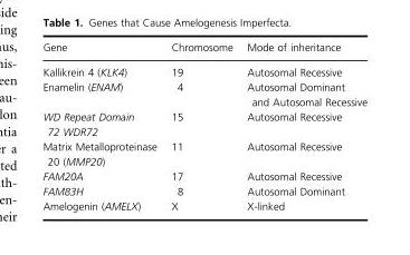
<table><thead><tr><td>Gene</td><td>Chromosome</td><td>Mode of inheritance</td></tr></thead><tbody><tr><td>Kallikrein 4 (KLK4)</td><td>19</td><td>Autosomal Recessive</td></tr><tr><td>Enamelin (ENAM)</td><td>4</td><td>Autosomal Dominant and Autosomal Recessive</td></tr><tr><td>WD Repeat Domain 72 WDR72</td><td>15</td><td>Autosomal Recessive</td></tr><tr><td>Matrix Metalloproteinase 20 (MMP20)</td><td>11</td><td>Autosomal Recessive</td></tr><tr><td>FAM20A</td><td>17</td><td>Autosomal Recessive</td></tr><tr><td>FAM83H</td><td>8</td><td>Autosomal Dominant</td></tr><tr><td>Amelogenin (AMELX)</td><td>X</td><td>X-linked</td></tr></tbody></table>